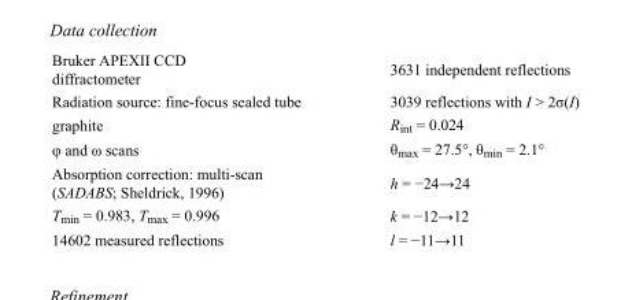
<table><tbody><tr><td>Bruker APEXII CCD diffractometer</td><td>3631 independent reflections</td></tr><tr><td>Radiation source: fine-focus sealed tube</td><td>3039 reflections with I &gt; 2σ(I)</td></tr><tr><td>graphite</td><td>R<sub>int</sub> = 0.024</td></tr><tr><td>φ and ω scans</td><td>θ<sub>max</sub> = 27.5°, θ<sub>min</sub> = 2.1°</td></tr><tr><td>Absorption correction: multi-scan (SADABS; Sheldrick, 1996)</td><td>h = −24→24</td></tr><tr><td>T<sub>min</sub> = 0.983, T<sub>max</sub> = 0.996</td><td>k = −12→12</td></tr><tr><td>14602 measured reflections</td><td>l = −11→11</td></tr></tbody></table>